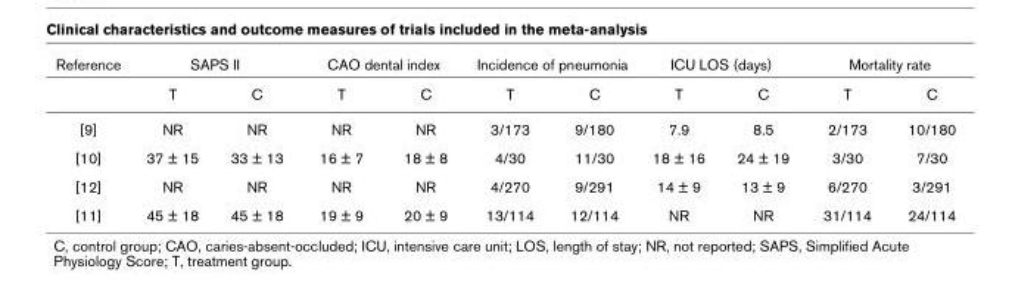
<table><thead><tr><td rowspan="2">Reference</td><td colspan="2">SAPS II</td><td colspan="2">CAO dental index</td><td colspan="2">Incidence of pneumonia</td><td colspan="2">ICU LOS (days)</td><td colspan="2">Mortality rate</td></tr><tr><td>T</td><td>C</td><td>T</td><td>C</td><td>T</td><td>C</td><td>T</td><td>C</td><td>T</td><td>C</td></tr></thead><tbody><tr><td>[9]</td><td>NR</td><td>NR</td><td>NR</td><td>NR</td><td>3/173</td><td>9/180</td><td>7.9</td><td>8.5</td><td>2/173</td><td>10/180</td></tr><tr><td>[10]</td><td>37 ± 15</td><td>33 ± 13</td><td>16 ± 7</td><td>18 ± 8</td><td>4/30</td><td>11/30</td><td>18 ± 16</td><td>24 ± 19</td><td>3/30</td><td>7/30</td></tr><tr><td>[12]</td><td>NR</td><td>NR</td><td>NR</td><td>NR</td><td>4/270</td><td>9/291</td><td>14 ± 9</td><td>13 ± 9</td><td>6/270</td><td>3/291</td></tr><tr><td>[11]</td><td>45 ± 18</td><td>45 ± 18</td><td>19 ± 9</td><td>20 ± 9</td><td>13/114</td><td>12/114</td><td>NR</td><td>NR</td><td>31/114</td><td>24/114</td></tr></tbody></table>